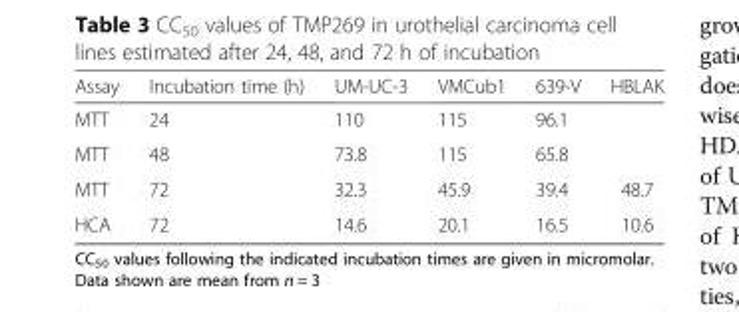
<table><thead><tr><td>Assay</td><td>Incubation time (h)</td><td>UM-UC-3</td><td>VMCub1</td><td>639-V</td><td>HBLAK</td></tr></thead><tbody><tr><td>MTT</td><td>24</td><td>110</td><td>115</td><td>96.1</td><td></td></tr><tr><td>MTT</td><td>48</td><td>73.8</td><td>115</td><td>65.8</td><td></td></tr><tr><td>MTT</td><td>72</td><td>32.3</td><td>45.9</td><td>39.4</td><td>48.7</td></tr><tr><td>HCA</td><td>72</td><td>14.6</td><td>20.1</td><td>16.5</td><td>10.6</td></tr></tbody></table>